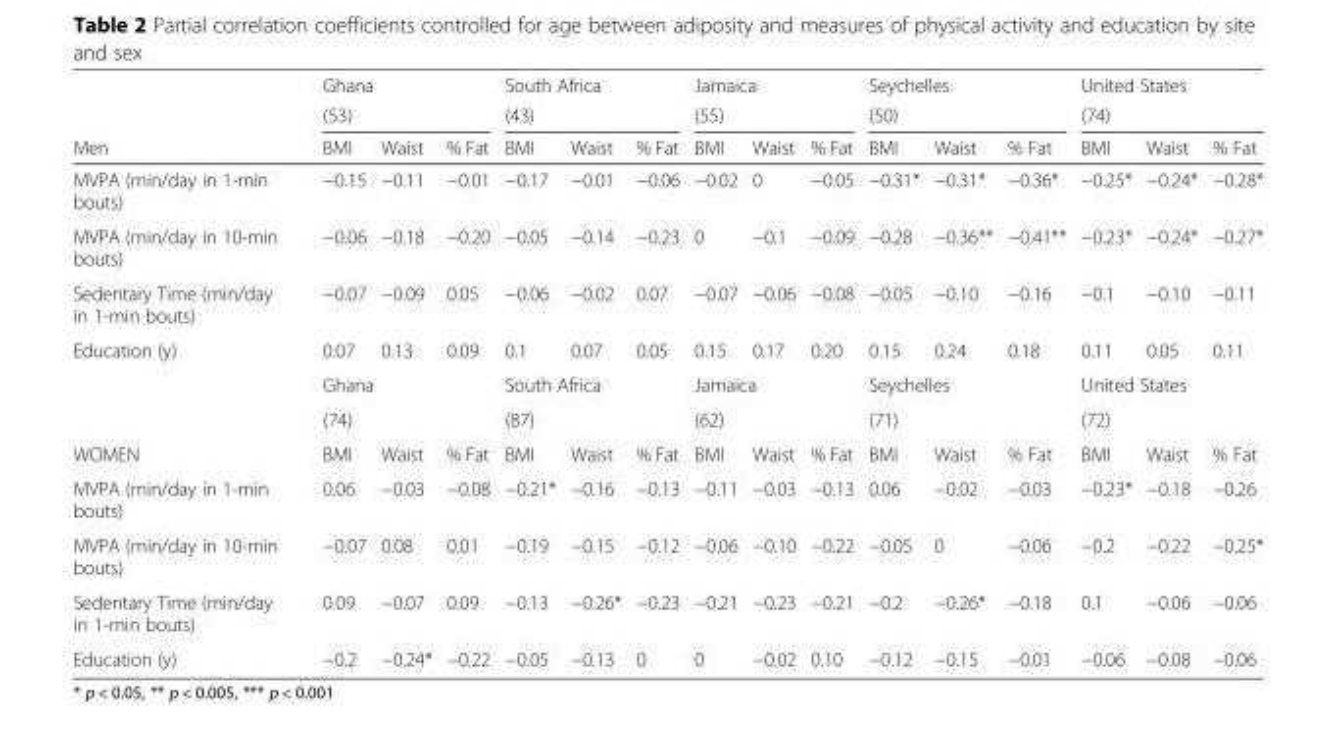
<table><thead><tr><td rowspan="3">Men</td><td rowspan="2" colspan="3">Ghana (53)</td><td rowspan="2" colspan="3">South Africa (43)</td><td rowspan="2" colspan="3">Jamaica (55)</td><td rowspan="2" colspan="3">Seychelles (50)</td><td rowspan="2" colspan="3">United States (74)</td></tr><tr></tr><tr><td>BMI</td><td>Waist</td><td>% Fat</td><td>BMI</td><td>Waist</td><td>% Fat</td><td>BMI</td><td>Waist</td><td>% Fat</td><td>BMI</td><td>Waist</td><td>% Fat</td><td>BMI</td><td>Waist</td><td>% Fat</td></tr></thead><tbody><tr><td>MVPA (min/day in 1-min bouts)</td><td>−0.15</td><td>−0.11</td><td>−0.01</td><td>−0.17</td><td>−0.01</td><td>−0.06</td><td>−0.02</td><td>0</td><td>−0.05</td><td>−0.31*</td><td>−0.31*</td><td>−0.36*</td><td>−0.25*</td><td>−0.24*</td><td>−0.28*</td></tr><tr><td>MVPA (min/day in 10-min bouts)</td><td>−0.06</td><td>−0.18</td><td>−0.20</td><td>−0.05</td><td>−0.14</td><td>−0.23</td><td>0</td><td>−0.1</td><td>−0.09</td><td>−0.28</td><td>−0.36**</td><td>−0.41**</td><td>−0.23*</td><td>−0.24*</td><td>−0.27*</td></tr><tr><td>Sedentary Time (min/day in 1-min bouts)</td><td>−0.07</td><td>−0.09</td><td>0.05</td><td>−0.06</td><td>−0.02</td><td>0.07</td><td>−0.07</td><td>−0.06</td><td>−0.08</td><td>−0.05</td><td>−0.10</td><td>−0.16</td><td>−0.1</td><td>−0.10</td><td>−0.11</td></tr><tr><td rowspan="3">Education (y)</td><td>0.07</td><td>0.13</td><td>0.09</td><td>0.1</td><td>0.07</td><td>0.05</td><td>0.15</td><td>0.17</td><td>0.20</td><td>0.15</td><td>0.24</td><td>0.18</td><td>0.11</td><td>0.05</td><td>0.11</td></tr><tr><td colspan="3">Ghana</td><td colspan="3">South Africa</td><td colspan="3">Jamaica</td><td colspan="3">Seychelles</td><td colspan="3">United States</td></tr><tr><td colspan="3">(74)</td><td colspan="3">(87)</td><td colspan="3">(62)</td><td colspan="3">(71)</td><td colspan="3">(72)</td></tr><tr><td>WOMEN</td><td>BMI</td><td>Waist</td><td>% Fat</td><td>BMI</td><td>Waist</td><td>% Fat</td><td>BMI</td><td>Waist</td><td>% Fat</td><td>BMI</td><td>Waist</td><td>% Fat</td><td>BMI</td><td>Waist</td><td>% Fat</td></tr><tr><td>MVPA (min/day in 1-min bouts)</td><td>0.06</td><td>−0.03</td><td>−0.08</td><td>−0.21*</td><td>−0.16</td><td>−0.13</td><td>−0.11</td><td>−0.03</td><td>−0.13</td><td>0.06</td><td>−0.02</td><td>−0.03</td><td>−0.23*</td><td>−0.18</td><td>−0.26</td></tr><tr><td>MVPA (min/day in 10-min bouts)</td><td>−0.07</td><td>0.08</td><td>0.01</td><td>−0.19</td><td>−0.15</td><td>−0.12</td><td>−0.06</td><td>−0.10</td><td>−0.22</td><td>−0.05</td><td>0</td><td>−0.06</td><td>−0.2</td><td>−0.22</td><td>−0.25*</td></tr><tr><td>Sedentary Time (min/day in 1-min bouts)</td><td>0.09</td><td>−0.07</td><td>0.09</td><td>−0.13</td><td>−0.26*</td><td>−0.23</td><td>−0.21</td><td>−0.23</td><td>−0.21</td><td>−0.2</td><td>−0.26*</td><td>−0.18</td><td>0.1</td><td>−0.06</td><td>−0.06</td></tr><tr><td>Education (y)</td><td>−0.2</td><td>−0.24*</td><td>−0.22</td><td>−0.05</td><td>−0.13</td><td>0</td><td>0</td><td>−0.02</td><td>0.10</td><td>−0.12</td><td>−0.15</td><td>−0.01</td><td>−0.06</td><td>−0.08</td><td>−0.06</td></tr></tbody></table>